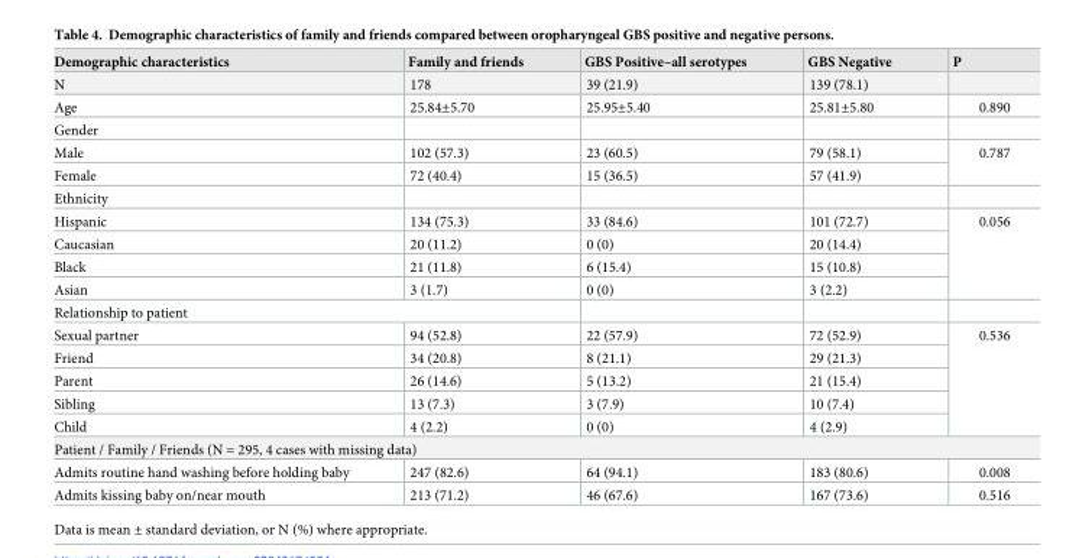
<table><thead><tr><td>Demographic characteristics</td><td>Family and friends</td><td>GBS Positive–all serotypes</td><td>GBS Negative</td><td>P</td></tr></thead><tbody><tr><td>N</td><td>178</td><td>39 (21.9)</td><td>139 (78.1)</td><td></td></tr><tr><td>Age</td><td>25.84±5.70</td><td>25.95±5.40</td><td>25.81±5.80</td><td>0.890</td></tr><tr><td colspan="5">Gender</td></tr><tr><td>Male</td><td>102 (57.3)</td><td>23 (60.5)</td><td>79 (58.1)</td><td rowspan="2">0.787</td></tr><tr><td>Female</td><td>72 (40.4)</td><td>15 (36.5)</td><td>57 (41.9)</td></tr><tr><td colspan="5">Ethnicity</td></tr><tr><td>Hispanic</td><td>134 (75.3)</td><td>33 (84.6)</td><td>101 (72.7)</td><td rowspan="4">0.056</td></tr><tr><td>Caucasian</td><td>20 (11.2)</td><td>0 (0)</td><td>20 (14.4)</td></tr><tr><td>Black</td><td>21 (11.8)</td><td>6 (15.4)</td><td>15 (10.8)</td></tr><tr><td>Asian</td><td>3 (1.7)</td><td>0 (0)</td><td>3 (2.2)</td></tr><tr><td colspan="5">Relationship to patient</td></tr><tr><td>Sexual partner</td><td>94 (52.8)</td><td>22 (57.9)</td><td>72 (52.9)</td><td rowspan="5">0.536</td></tr><tr><td>Friend</td><td>34 (20.8)</td><td>8 (21.1)</td><td>29 (21.3)</td></tr><tr><td>Parent</td><td>26 (14.6)</td><td>5 (13.2)</td><td>21 (15.4)</td></tr><tr><td>Sibling</td><td>13 (7.3)</td><td>3 (7.9)</td><td>10 (7.4)</td></tr><tr><td>Child</td><td>4 (2.2)</td><td>0 (0)</td><td>4 (2.9)</td></tr><tr><td colspan="5">Patient / Family / Friends (N = 295, 4 cases with missing data)</td></tr><tr><td>Admits routine hand washing before holding baby</td><td>247 (82.6)</td><td>64 (94.1)</td><td>183 (80.6)</td><td>0.008</td></tr><tr><td>Admits kissing baby on/near mouth</td><td>213 (71.2)</td><td>46 (67.6)</td><td>167 (73.6)</td><td>0.516</td></tr></tbody></table>